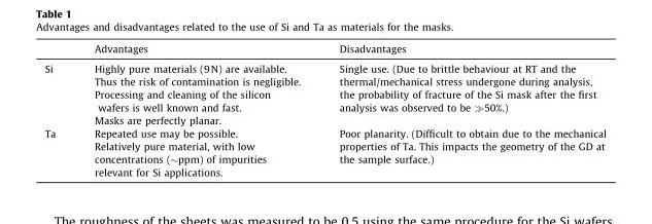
<table><thead><tr><td></td><td>Advantages</td><td>Disadvantages</td></tr></thead><tbody><tr><td>Si</td><td>Highly pure materials (9N) are available. Thus the risk of contamination is negligible. Processing and cleaning of the silicon wafers is well known and fast. Masks are perfectly planar.</td><td>Single use. (Due to brittle behaviour at RT and the thermal/mechanical stress undergone during analysis, the probability of fracture of the Si mask after the first analysis was observed to be ≫50%.)</td></tr><tr><td>Ta</td><td>Repeated use may be possible. Relatively pure material, with low concentrations (∼ppm) of impurities relevant for Si applications.</td><td>Poor planarity. (Difficult to obtain due to the mechanical properties of Ta. This impacts the geometry of the GD at the sample surface.)</td></tr></tbody></table>